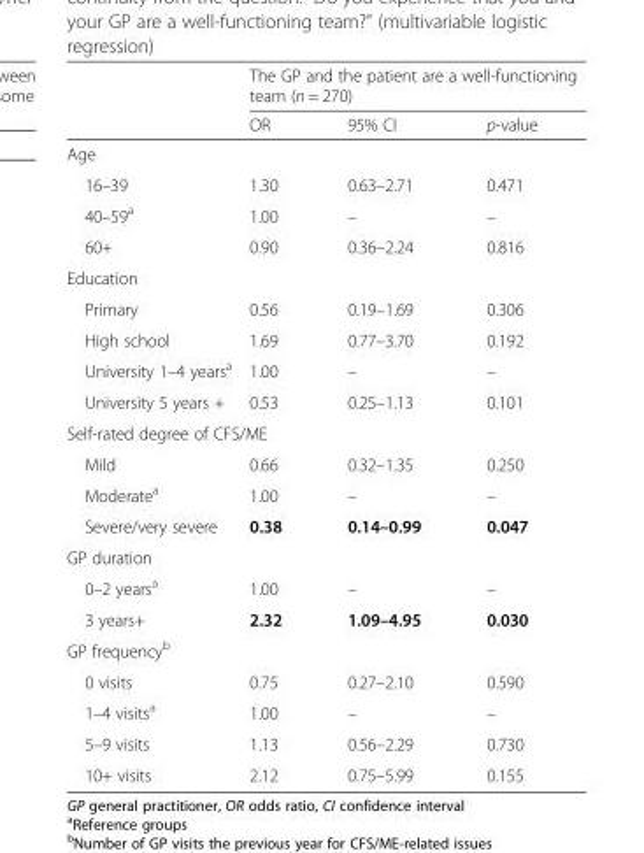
<table><thead><tr><td rowspan="2"></td><td colspan="3">The GP and the patient are a well-functioning team (n = 270)</td></tr><tr><td>OR</td><td>95% CI</td><td>p-value</td></tr></thead><tbody><tr><td colspan="4">Age</td></tr><tr><td>16–39</td><td>1.30</td><td>0.63–2.71</td><td>0.471</td></tr><tr><td>40–59<sup>a</sup></td><td>1.00</td><td>–</td><td>–</td></tr><tr><td>60+</td><td>0.90</td><td>0.36–2.24</td><td>0.816</td></tr><tr><td colspan="4">Education</td></tr><tr><td>Primary</td><td>0.56</td><td>0.19–1.69</td><td>0.306</td></tr><tr><td>High school</td><td>1.69</td><td>0.77–3.70</td><td>0.192</td></tr><tr><td>University 1–4 years<sup>a</sup></td><td>1.00</td><td>–</td><td>–</td></tr><tr><td>University 5 years +</td><td>0.53</td><td>0.25–1.13</td><td>0.101</td></tr><tr><td colspan="4">Self-rated degree of CFS/ME</td></tr><tr><td>Mild</td><td>0.66</td><td>0.32–1.35</td><td>0.250</td></tr><tr><td>Moderate<sup>a</sup></td><td>1.00</td><td>–</td><td>–</td></tr><tr><td>Severe/very severe</td><td>0.38</td><td>0.14–0.99</td><td>0.047</td></tr><tr><td colspan="4">GP duration</td></tr><tr><td>0–2 years<sup>a</sup></td><td>1.00</td><td>–</td><td>–</td></tr><tr><td>3 years+</td><td>2.32</td><td>1.09–4.95</td><td>0.030</td></tr><tr><td colspan="4">GP frequency<sup>b</sup></td></tr><tr><td>0 visits</td><td>0.75</td><td>0.27–2.10</td><td>0.590</td></tr><tr><td>1–4 visits<sup>a</sup></td><td>1.00</td><td>–</td><td>–</td></tr><tr><td>5–9 visits</td><td>1.13</td><td>0.56–2.29</td><td>0.730</td></tr><tr><td>10+ visits</td><td>2.12</td><td>0.75–5.99</td><td>0.155</td></tr></tbody></table>